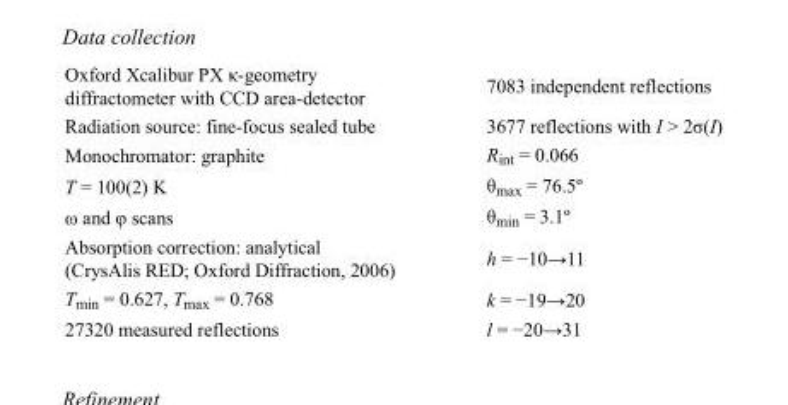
<table><tbody><tr><td>Oxford Xcalibur PX κ-geometry diffractometer with CCD area-detector</td><td>7083 independent reflections</td></tr><tr><td>Radiation source: fine-focus sealed tube</td><td>3677 reflections with I &gt; 2σ(I)</td></tr><tr><td>Monochromator: graphite</td><td>R<sub>int</sub> = 0.066</td></tr><tr><td>T = 100(2) K</td><td>θ<sub>max</sub> = 76.5º</td></tr><tr><td>ω and φ scans</td><td>θ<sub>min</sub> = 3.1º</td></tr><tr><td>Absorption correction: analytical (CrysAlis RED; Oxford Diffraction, 2006)</td><td>h = −10→11</td></tr><tr><td>T<sub>min</sub> = 0.627, T<sub>max</sub> = 0.768</td><td>k = −19→20</td></tr><tr><td>27320 measured reflections</td><td>l = −20→31</td></tr></tbody></table>